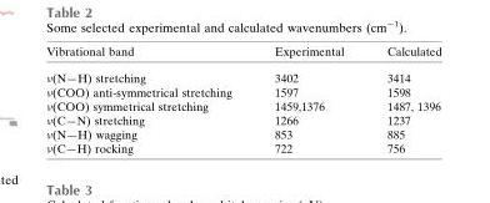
<table><thead><tr><td>Vibrational band</td><td>Experimental</td><td>Calculated</td></tr></thead><tbody><tr><td>ν(N—H) stretching</td><td>3402</td><td>3414</td></tr><tr><td>ν(COO) anti-symmetrical stretching</td><td>1597</td><td>1598</td></tr><tr><td>ν(COO) symmetrical stretching</td><td>1459,1376</td><td>1487, 1396</td></tr><tr><td>ν(C—N) stretching</td><td>1266</td><td>1237</td></tr><tr><td>ν(N—H) wagging</td><td>853</td><td>885</td></tr><tr><td>ν(C—H) rocking</td><td>722</td><td>756</td></tr></tbody></table>